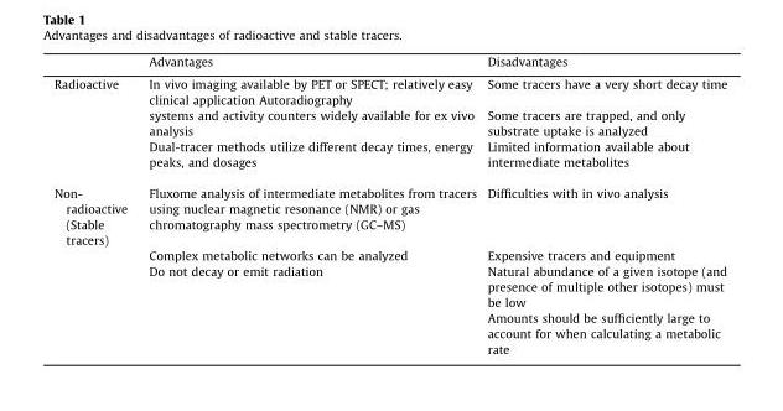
<table><thead><tr><td></td><td>Advantages</td><td>Disadvantages</td></tr></thead><tbody><tr><td rowspan="3">Radioactive</td><td>In vivo imaging available by PET or SPECT; relatively easy clinical application Autoradiography</td><td>Some tracers have a very short decay time</td></tr><tr><td>systems and activity counters widely available for ex vivo analysis</td><td>Some tracers are trapped, and only substrate uptake is analyzed</td></tr><tr><td>Dual-tracer methods utilize different decay times, energy peaks, and dosages</td><td>Limited information available about intermediate metabolites</td></tr><tr><td rowspan="4">Non- radioactive (Stable tracers)</td><td>Fluxome analysis of intermediate metabolites from tracers using nuclear magnetic resonance (NMR) or gas chromatography mass spectrometry (GC–MS)</td><td>Difficulties with in vivo analysis</td></tr><tr><td>Complex metabolic networks can be analyzed</td><td>Expensive tracers and equipment</td></tr><tr><td>Do not decay or emit radiation</td><td>Natural abundance of a given isotope (and presence of multiple other isotopes) must be low</td></tr><tr><td></td><td>Amounts should be sufficiently large to account for when calculating a metabolic rate</td></tr></tbody></table>